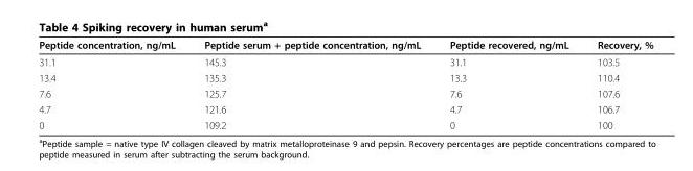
<table><thead><tr><td>Peptide concentration, ng/mL</td><td>Peptide serum + peptide concentration, ng/mL</td><td>Peptide recovered, ng/mL</td><td>Recovery, %</td></tr></thead><tbody><tr><td>31.1</td><td>145.3</td><td>31.1</td><td>103.5</td></tr><tr><td>13.4</td><td>135.3</td><td>13.3</td><td>110.4</td></tr><tr><td>7.6</td><td>125.7</td><td>7.6</td><td>107.6</td></tr><tr><td>4.7</td><td>121.6</td><td>4.7</td><td>106.7</td></tr><tr><td>0</td><td>109.2</td><td>0</td><td>100</td></tr></tbody></table>